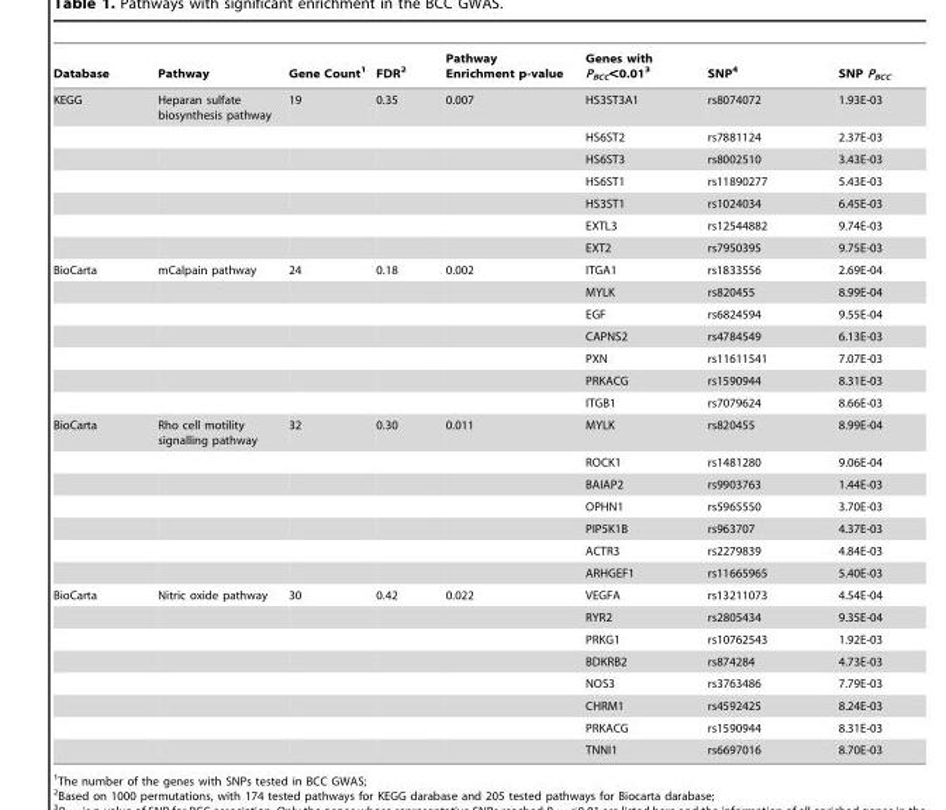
<table><thead><tr><td>Database</td><td>Pathway</td><td>Gene Count<sup>1</sup></td><td>FDR<sup>2</sup></td><td>Pathway Enrichment p-value</td><td>Genes with P<sub>BCC</sub>&lt;0.01<sup>3</sup></td><td>SNP<sup>4</sup></td><td>SNP P<sub>BCC</sub></td></tr></thead><tbody><tr><td rowspan="7">KEGG</td><td>Heparan sulfate biosynthesis pathway</td><td>19</td><td>0.35</td><td>0.007</td><td>HS3ST3A1</td><td>rs8074072</td><td>1.93E-03</td></tr><tr><td></td><td></td><td></td><td></td><td>HS6ST2</td><td>rs7881124</td><td>2.37E-03</td></tr><tr><td></td><td></td><td></td><td></td><td>HS6ST3</td><td>rs8002510</td><td>3.43E-03</td></tr><tr><td></td><td></td><td></td><td></td><td>HS6ST1</td><td>rs11890277</td><td>5.43E-03</td></tr><tr><td></td><td></td><td></td><td></td><td>HS3ST1</td><td>rs1024034</td><td>6.45E-03</td></tr><tr><td></td><td></td><td></td><td></td><td>EXTL3</td><td>rs12544882</td><td>9.74E-03</td></tr><tr><td></td><td></td><td></td><td></td><td>EXT2</td><td>rs7950395</td><td>9.75E-03</td></tr><tr><td rowspan="7">BioCarta</td><td>mCalpain pathway</td><td>24</td><td>0.18</td><td>0.002</td><td>ITGA1</td><td>rs1833556</td><td>2.69E-04</td></tr><tr><td></td><td></td><td></td><td></td><td>MYLK</td><td>rs820455</td><td>8.99E-04</td></tr><tr><td></td><td></td><td></td><td></td><td>EGF</td><td>rs6824594</td><td>9.55E-04</td></tr><tr><td></td><td></td><td></td><td></td><td>CAPNS2</td><td>rs4784549</td><td>6.13E-03</td></tr><tr><td></td><td></td><td></td><td></td><td>PXN</td><td>rs11611541</td><td>7.07E-03</td></tr><tr><td></td><td></td><td></td><td></td><td>PRKACG</td><td>rs1590944</td><td>8.31E-03</td></tr><tr><td></td><td></td><td></td><td></td><td>ITGB1</td><td>rs7079624</td><td>8.66E-03</td></tr><tr><td rowspan="7">BioCarta</td><td>Rho cell motility signalling pathway</td><td>32</td><td>0.30</td><td>0.011</td><td>MYLK</td><td>rs820455</td><td>8.99E-04</td></tr><tr><td></td><td></td><td></td><td></td><td>ROCK1</td><td>rs1481280</td><td>9.06E-04</td></tr><tr><td></td><td></td><td></td><td></td><td>BAIAP2</td><td>rs9903763</td><td>1.44E-03</td></tr><tr><td></td><td></td><td></td><td></td><td>OPHN1</td><td>rs5965550</td><td>3.70E-03</td></tr><tr><td></td><td></td><td></td><td></td><td>PIP5K1B</td><td>rs963707</td><td>4.37E-03</td></tr><tr><td></td><td></td><td></td><td></td><td>ACTR3</td><td>rs2279839</td><td>4.84E-03</td></tr><tr><td></td><td></td><td></td><td></td><td>ARHGEF1</td><td>rs11665965</td><td>5.40E-03</td></tr><tr><td rowspan="8">BioCarta</td><td>Nitric oxide pathway</td><td>30</td><td>0.42</td><td>0.022</td><td>VEGFA</td><td>rs13211073</td><td>4.54E-04</td></tr><tr><td></td><td></td><td></td><td></td><td>RYR2</td><td>rs2805434</td><td>9.35E-04</td></tr><tr><td></td><td></td><td></td><td></td><td>PRKG1</td><td>rs10762543</td><td>1.92E-03</td></tr><tr><td></td><td></td><td></td><td></td><td>BDKRB2</td><td>rs874284</td><td>4.73E-03</td></tr><tr><td></td><td></td><td></td><td></td><td>NOS3</td><td>rs3763486</td><td>7.79E-03</td></tr><tr><td></td><td></td><td></td><td></td><td>CHRM1</td><td>rs4592425</td><td>8.24E-03</td></tr><tr><td></td><td></td><td></td><td></td><td>PRKACG</td><td>rs1590944</td><td>8.31E-03</td></tr><tr><td></td><td></td><td></td><td></td><td>TNNI1</td><td>rs6697016</td><td>8.70E-03</td></tr></tbody></table>